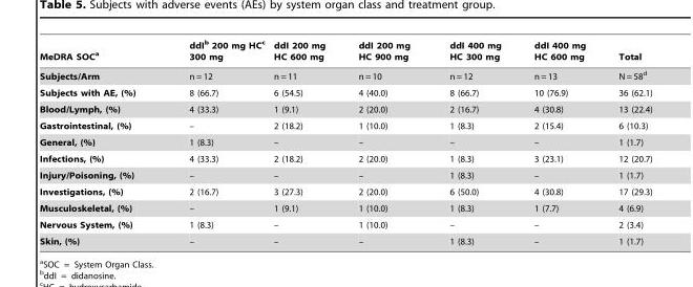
<table><thead><tr><td>MeDRA SOC<sup>a</sup></td><td>ddI<sup>b</sup> 200 mg HC<sup>c</sup> 300 mg</td><td>ddI 200 mg HC 600 mg</td><td>ddI 200 mg HC 900 mg</td><td>ddI 400 mg HC 300 mg</td><td>ddI 400 mg HC 600 mg</td><td>Total</td></tr></thead><tbody><tr><td>Subjects/Arm</td><td>n = 12</td><td>n = 11</td><td>n = 10</td><td>n = 12</td><td>n = 13</td><td>N = 58<sup>d</sup></td></tr><tr><td>Subjects with AE, (%)</td><td>8 (66.7)</td><td>6 (54.5)</td><td>4 (40.0)</td><td>8 (66.7)</td><td>10 (76.9)</td><td>36 (62.1)</td></tr><tr><td>Blood/Lymph, (%)</td><td>4 (33.3)</td><td>1 (9.1)</td><td>2 (20.0)</td><td>2 (16.7)</td><td>4 (30.8)</td><td>13 (22.4)</td></tr><tr><td>Gastrointestinal, (%)</td><td>–</td><td>2 (18.2)</td><td>1 (10.0)</td><td>1 (8.3)</td><td>2 (15.4)</td><td>6 (10.3)</td></tr><tr><td>General, (%)</td><td>1 (8.3)</td><td>–</td><td>–</td><td>–</td><td>–</td><td>1 (1.7)</td></tr><tr><td>Infections, (%)</td><td>4 (33.3)</td><td>2 (18.2)</td><td>2 (20.0)</td><td>1 (8.3)</td><td>3 (23.1)</td><td>12 (20.7)</td></tr><tr><td>Injury/Poisoning, (%)</td><td>–</td><td>–</td><td>–</td><td>1 (8.3)</td><td>–</td><td>1 (1.7)</td></tr><tr><td>Investigations, (%)</td><td>2 (16.7)</td><td>3 (27.3)</td><td>2 (20.0)</td><td>6 (50.0)</td><td>4 (30.8)</td><td>17 (29.3)</td></tr><tr><td>Musculoskeletal, (%)</td><td>–</td><td>1 (9.1)</td><td>1 (10.0)</td><td>1 (8.3)</td><td>1 (7.7)</td><td>4 (6.9)</td></tr><tr><td>Nervous System, (%)</td><td>1 (8.3)</td><td>–</td><td>1 (10.0)</td><td>–</td><td>–</td><td>2 (3.4)</td></tr><tr><td>Skin, (%)</td><td>–</td><td>–</td><td>–</td><td>1 (8.3)</td><td>–</td><td>1 (1.7)</td></tr></tbody></table>